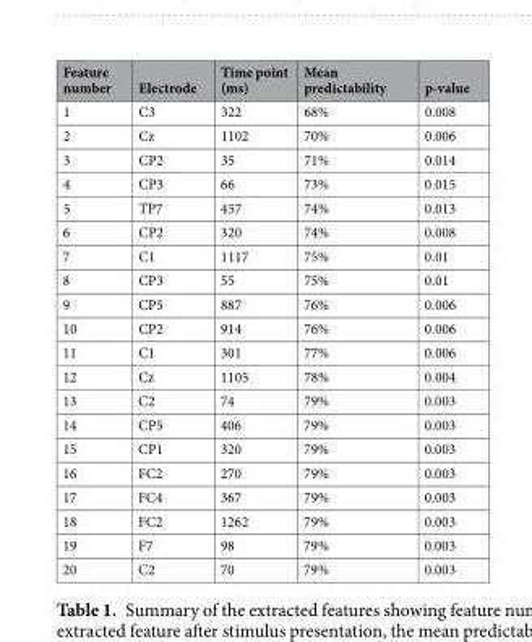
<table><thead><tr><td>Feature number</td><td>Electrode</td><td>Time point (ms)</td><td>Mean predictability</td><td>p-value</td></tr></thead><tbody><tr><td>1</td><td>C3</td><td>322</td><td>68%</td><td>0.008</td></tr><tr><td>2</td><td>Cz</td><td>1102</td><td>70%</td><td>0.006</td></tr><tr><td>3</td><td>CP2</td><td>35</td><td>71%</td><td>0.014</td></tr><tr><td>4</td><td>CP3</td><td>66</td><td>73%</td><td>0.015</td></tr><tr><td>5</td><td>TP7</td><td>457</td><td>74%</td><td>0.013</td></tr><tr><td>6</td><td>CP2</td><td>320</td><td>74%</td><td>0.008</td></tr><tr><td>7</td><td>C1</td><td>1117</td><td>75%</td><td>0.01</td></tr><tr><td>8</td><td>CP3</td><td>55</td><td>75%</td><td>0.01</td></tr><tr><td>9</td><td>CP5</td><td>887</td><td>76%</td><td>0.006</td></tr><tr><td>10</td><td>CP2</td><td>914</td><td>76%</td><td>0.006</td></tr><tr><td>11</td><td>C1</td><td>301</td><td>77%</td><td>0.006</td></tr><tr><td>12</td><td>Cz</td><td>1105</td><td>78%</td><td>0.004</td></tr><tr><td>13</td><td>C2</td><td>74</td><td>79%</td><td>0.003</td></tr><tr><td>14</td><td>CP5</td><td>406</td><td>79%</td><td>0.003</td></tr><tr><td>15</td><td>CP1</td><td>320</td><td>79%</td><td>0.003</td></tr><tr><td>16</td><td>FC2</td><td>270</td><td>79%</td><td>0.003</td></tr><tr><td>17</td><td>FC4</td><td>367</td><td>79%</td><td>0.003</td></tr><tr><td>18</td><td>FC2</td><td>1262</td><td>79%</td><td>0.003</td></tr><tr><td>19</td><td>F7</td><td>98</td><td>79%</td><td>0.003</td></tr><tr><td>20</td><td>C2</td><td>70</td><td>79%</td><td>0.003</td></tr></tbody></table>